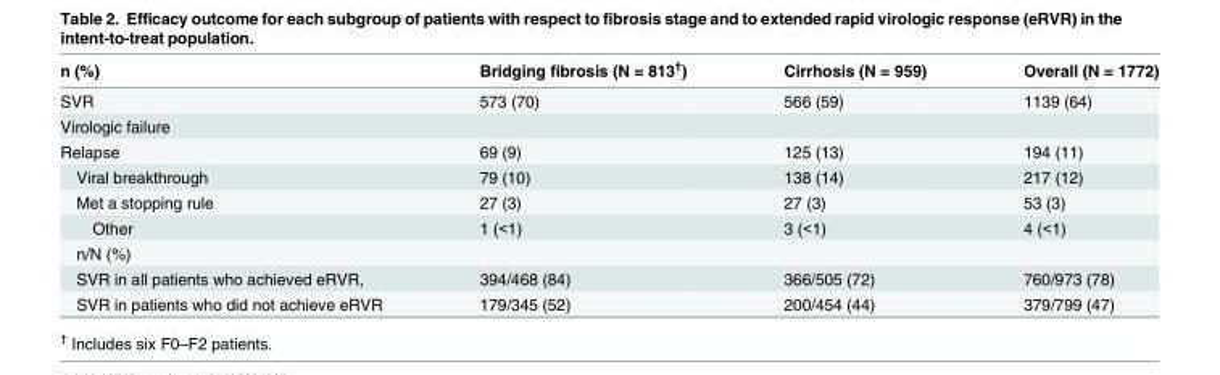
<table><thead><tr><td>n (%)</td><td>Bridging fibrosis (N = 813<sup>†</sup>)</td><td>Cirrhosis (N = 959)</td><td>Overall (N = 1772)</td></tr></thead><tbody><tr><td>SVR</td><td>573 (70)</td><td>566 (59)</td><td>1139 (64)</td></tr><tr><td colspan="4">Virologic failure</td></tr><tr><td>Relapse</td><td>69 (9)</td><td>125 (13)</td><td>194 (11)</td></tr><tr><td>Viral breakthrough</td><td>79 (10)</td><td>138 (14)</td><td>217 (12)</td></tr><tr><td>Met a stopping rule</td><td>27 (3)</td><td>27 (3)</td><td>53 (3)</td></tr><tr><td>Other</td><td>1 (&lt;1)</td><td>3 (&lt;1)</td><td>4 (&lt;1)</td></tr><tr><td colspan="4">n/N (%)</td></tr><tr><td>SVR in all patients who achieved eRVR,</td><td>394/468 (84)</td><td>366/505 (72)</td><td>760/973 (78)</td></tr><tr><td>SVR in patients who did not achieve eRVR</td><td>179/345 (52)</td><td>200/454 (44)</td><td>379/799 (47)</td></tr></tbody></table>